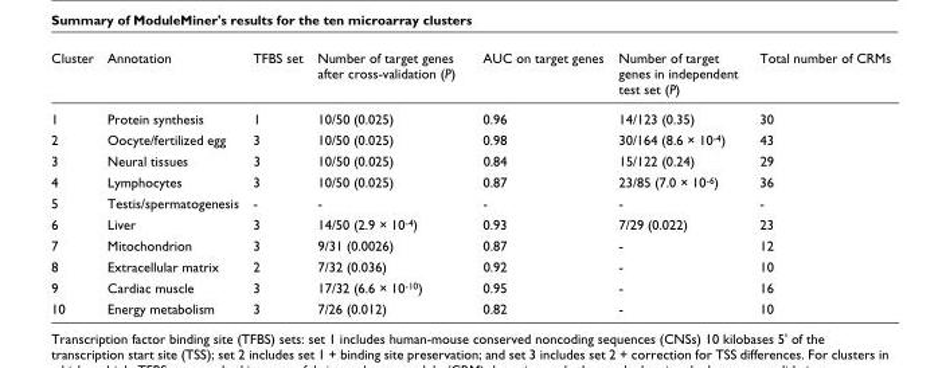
<table><thead><tr><td>Cluster</td><td>Annotation</td><td>TFBS set</td><td>Number of target genes after cross-validation (P)</td><td>AUC on target genes</td><td>Number of target genes in independent test set (P)</td><td>Total number of CRMs</td></tr></thead><tbody><tr><td>1</td><td>Protein synthesis</td><td>1</td><td>10/50 (0.025)</td><td>0.96</td><td>14/123 (0.35)</td><td>30</td></tr><tr><td>2</td><td>Oocyte/fertilized egg</td><td>3</td><td>10/50 (0.025)</td><td>0.98</td><td>30/164 (8.6 × 10<sup>-4</sup>)</td><td>43</td></tr><tr><td>3</td><td>Neural tissues</td><td>3</td><td>10/50 (0.025)</td><td>0.84</td><td>15/122 (0.24)</td><td>29</td></tr><tr><td>4</td><td>Lymphocytes</td><td>3</td><td>10/50 (0.025)</td><td>0.87</td><td>23/85 (7.0 × 10<sup>-6</sup>)</td><td>36</td></tr><tr><td>5</td><td>Testis/spermatogenesis</td><td>-</td><td>-</td><td>-</td><td>-</td><td>-</td></tr><tr><td>6</td><td>Liver</td><td>3</td><td>14/50 (2.9 × 10<sup>-4</sup>)</td><td>0.93</td><td>7/29 (0.022)</td><td>23</td></tr><tr><td>7</td><td>Mitochondrion</td><td>3</td><td>9/31 (0.0026)</td><td>0.87</td><td>-</td><td>12</td></tr><tr><td>8</td><td>Extracellular matrix</td><td>2</td><td>7/32 (0.036)</td><td>0.92</td><td>-</td><td>10</td></tr><tr><td>9</td><td>Cardiac muscle</td><td>3</td><td>17/32 (6.6 × 10<sup>-10</sup>)</td><td>0.95</td><td>-</td><td>16</td></tr><tr><td>10</td><td>Energy metabolism</td><td>3</td><td>7/26 (0.012)</td><td>0.82</td><td>-</td><td>10</td></tr></tbody></table>